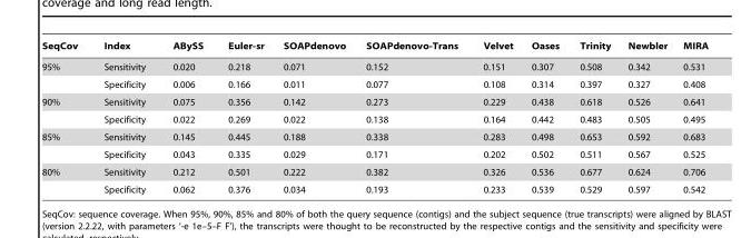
<table><thead><tr><td>SeqCov</td><td>Index</td><td>ABySS</td><td>Euler-sr</td><td>SOAPdenovo</td><td>SOAPdenovo-Trans</td><td>Velvet</td><td>Oases</td><td>Trinity</td><td>Newbler</td><td>MIRA</td></tr></thead><tbody><tr><td rowspan="2">95%</td><td>Sensitivity</td><td>0.020</td><td>0.218</td><td>0.071</td><td>0.152</td><td>0.151</td><td>0.307</td><td>0.508</td><td>0.342</td><td>0.531</td></tr><tr><td>Specificity</td><td>0.006</td><td>0.166</td><td>0.011</td><td>0.077</td><td>0.108</td><td>0.314</td><td>0.397</td><td>0.327</td><td>0.408</td></tr><tr><td rowspan="2">90%</td><td>Sensitivity</td><td>0.075</td><td>0.356</td><td>0.142</td><td>0.273</td><td>0.229</td><td>0.438</td><td>0.618</td><td>0.526</td><td>0.641</td></tr><tr><td>Specificity</td><td>0.022</td><td>0.269</td><td>0.022</td><td>0.138</td><td>0.164</td><td>0.442</td><td>0.483</td><td>0.505</td><td>0.495</td></tr><tr><td rowspan="2">85%</td><td>Sensitivity</td><td>0.145</td><td>0.445</td><td>0.188</td><td>0.338</td><td>0.283</td><td>0.498</td><td>0.653</td><td>0.592</td><td>0.683</td></tr><tr><td>Specificity</td><td>0.043</td><td>0.335</td><td>0.029</td><td>0.171</td><td>0.202</td><td>0.502</td><td>0.511</td><td>0.567</td><td>0.525</td></tr><tr><td rowspan="2">80%</td><td>Sensitivity</td><td>0.212</td><td>0.501</td><td>0.222</td><td>0.382</td><td>0.326</td><td>0.536</td><td>0.677</td><td>0.624</td><td>0.706</td></tr><tr><td>Specificity</td><td>0.062</td><td>0.376</td><td>0.034</td><td>0.193</td><td>0.233</td><td>0.539</td><td>0.529</td><td>0.597</td><td>0.542</td></tr></tbody></table>